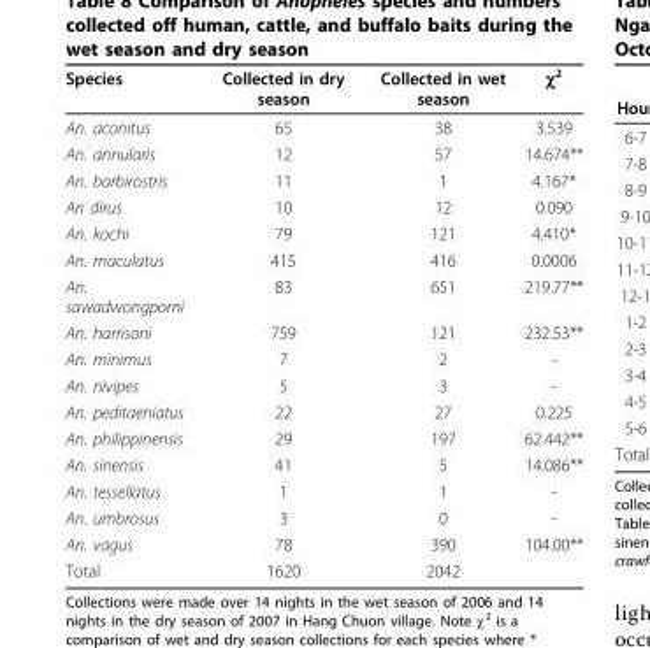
<table><thead><tr><td>Species</td><td>Collected in dry season</td><td>Collected in wet season</td><td>χ<sup>2</sup></td></tr></thead><tbody><tr><td>An. aconitus</td><td>65</td><td>38</td><td>3.539</td></tr><tr><td>An. annularis</td><td>12</td><td>57</td><td>14.674**</td></tr><tr><td>An. barbirostris</td><td>11</td><td>1</td><td>4.167*</td></tr><tr><td>An dirus</td><td>10</td><td>12</td><td>0.090</td></tr><tr><td>An. kochi</td><td>79</td><td>121</td><td>4.410*</td></tr><tr><td>An. maculatus</td><td>415</td><td>416</td><td>0.0006</td></tr><tr><td>An. sawadwongporni</td><td>83</td><td>651</td><td>219.77**</td></tr><tr><td>An. harrisoni</td><td>759</td><td>121</td><td>232.53**</td></tr><tr><td>An. minimus</td><td>7</td><td>2</td><td>-</td></tr><tr><td>An. nivipes</td><td>5</td><td>3</td><td>-</td></tr><tr><td>An. peditaeniatus</td><td>22</td><td>27</td><td>0.225</td></tr><tr><td>An. philippinensis</td><td>29</td><td>197</td><td>62.442**</td></tr><tr><td>An. sinensis</td><td>41</td><td>5</td><td>14.086**</td></tr><tr><td>An. tessellatus</td><td>1</td><td>1</td><td>-</td></tr><tr><td>An. umbrosus</td><td>3</td><td>0</td><td>-</td></tr><tr><td>An. vagus</td><td>78</td><td>390</td><td>104.00**</td></tr><tr><td>Total</td><td>1620</td><td>2042</td><td></td></tr></tbody></table>